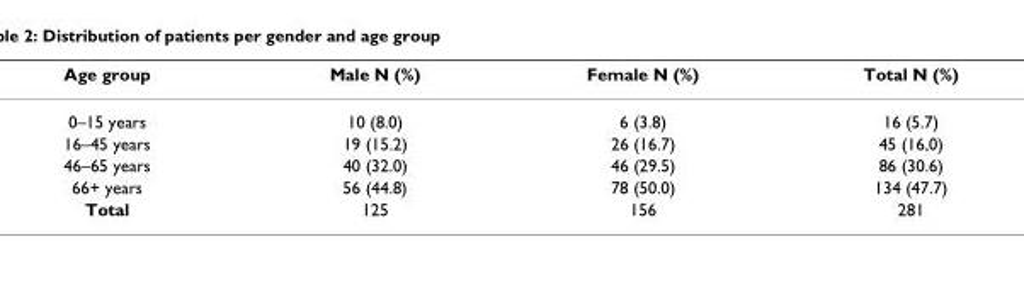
<table><thead><tr><td>Age group</td><td>Male N (%)</td><td>Female N (%)</td><td>Total N (%)</td></tr></thead><tbody><tr><td>0–15 years</td><td>10 (8.0)</td><td>6 (3.8)</td><td>16 (5.7)</td></tr><tr><td>16–45 years</td><td>19 (15.2)</td><td>26 (16.7)</td><td>45 (16,0)</td></tr><tr><td>46–65 years</td><td>40 (32.0)</td><td>46 (29.5)</td><td>86 (30.6)</td></tr><tr><td>66+ years</td><td>56 (44.8)</td><td>78 (50.0)</td><td>134 (47.7)</td></tr><tr><td>Total</td><td>125</td><td>156</td><td>281</td></tr></tbody></table>